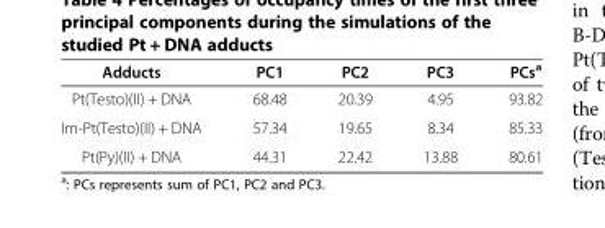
<table><thead><tr><td>Adducts</td><td>PC1</td><td>PC2</td><td>PC3</td><td>PCs<sup>a</sup></td></tr></thead><tbody><tr><td>Pt(Testo)(II) + DNA</td><td>68.48</td><td>20.39</td><td>4.95</td><td>93.82</td></tr><tr><td>Im-Pt(Testo)(II) + DNA</td><td>57.34</td><td>19.65</td><td>8.34</td><td>85.33</td></tr><tr><td>Pt(Py)(II) + DNA</td><td>44.31</td><td>22.42</td><td>13.88</td><td>80.61</td></tr></tbody></table>